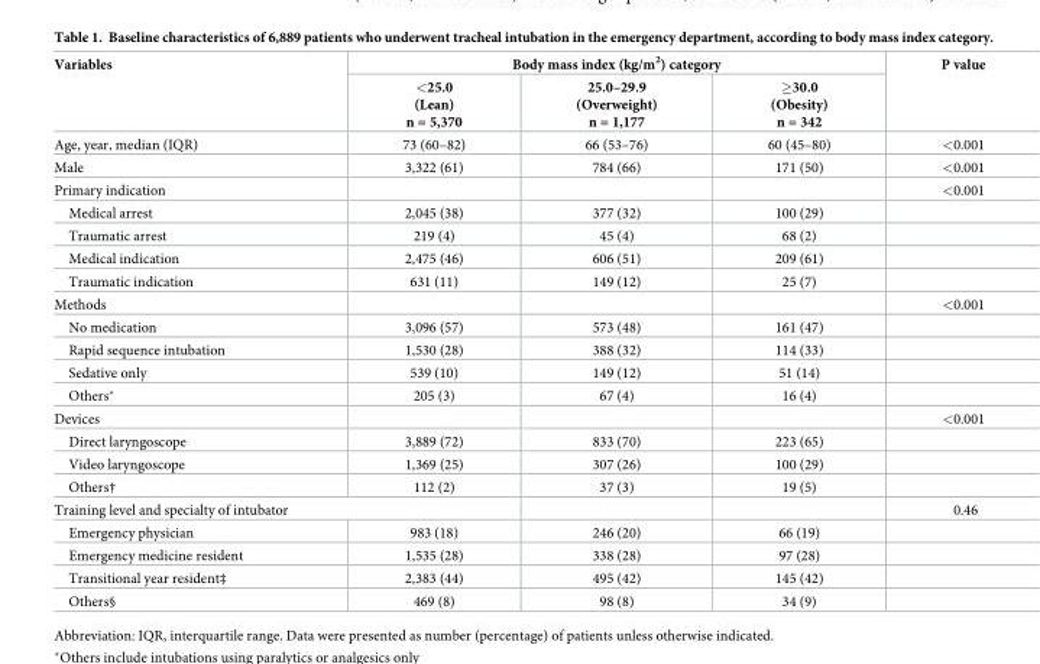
<table><thead><tr><td rowspan="2">Variables</td><td colspan="3">Body mass index (kg/m<sup>2</sup>) category</td><td rowspan="2">P value</td></tr><tr><td>&lt;25.0 (Lean) n = 5,370</td><td>25.0–29.9 (Overweight) n = 1,177</td><td>≥30.0 (Obesity) n = 342</td></tr></thead><tbody><tr><td>Age, year, median (IQR)</td><td>73 (60–82)</td><td>66 (53–76)</td><td>60 (45–80)</td><td>&lt;0.001</td></tr><tr><td>Male</td><td>3,322 (61)</td><td>784 (66)</td><td>171 (50)</td><td>&lt;0.001</td></tr><tr><td>Primary indication</td><td></td><td></td><td></td><td>&lt;0.001</td></tr><tr><td>Medical arrest</td><td>2,045 (38)</td><td>377 (32)</td><td>100 (29)</td><td></td></tr><tr><td>Traumatic arrest</td><td>219 (4)</td><td>45 (4)</td><td>68 (2)</td><td></td></tr><tr><td>Medical indication</td><td>2,475 (46)</td><td>606 (51)</td><td>209 (61)</td><td></td></tr><tr><td>Traumatic indication</td><td>631 (11)</td><td>149 (12)</td><td>25 (7)</td><td></td></tr><tr><td>Methods</td><td></td><td></td><td></td><td>&lt;0.001</td></tr><tr><td>No medication</td><td>3,096 (57)</td><td>573 (48)</td><td>161 (47)</td><td></td></tr><tr><td>Rapid sequence intubation</td><td>1,530 (28)</td><td>388 (32)</td><td>114 (33)</td><td></td></tr><tr><td>Sedative only</td><td>539 (10)</td><td>149 (12)</td><td>51 (14)</td><td></td></tr><tr><td>Others*</td><td>205 (3)</td><td>67 (4)</td><td>16 (4)</td><td></td></tr><tr><td>Devices</td><td></td><td></td><td></td><td>&lt;0.001</td></tr><tr><td>Direct laryngoscope</td><td>3,889 (72)</td><td>833 (70)</td><td>223 (65)</td><td></td></tr><tr><td>Video laryngoscope</td><td>1,369 (25)</td><td>307 (26)</td><td>100 (29)</td><td></td></tr><tr><td>Others†</td><td>112 (2)</td><td>37 (3)</td><td>19 (5)</td><td></td></tr><tr><td colspan="2">Training level and specialty of intubator</td><td></td><td></td><td>0.46</td></tr><tr><td>Emergency physician</td><td>983 (18)</td><td>246 (20)</td><td>66 (19)</td><td></td></tr><tr><td>Emergency medicine resident</td><td>1,535 (28)</td><td>338 (28)</td><td>97 (28)</td><td></td></tr><tr><td>Transitional year resident‡</td><td>2,383 (44)</td><td>495 (42)</td><td>145 (42)</td><td></td></tr><tr><td>Others§</td><td>469 (8)</td><td>98 (8)</td><td>34 (9)</td><td></td></tr></tbody></table>